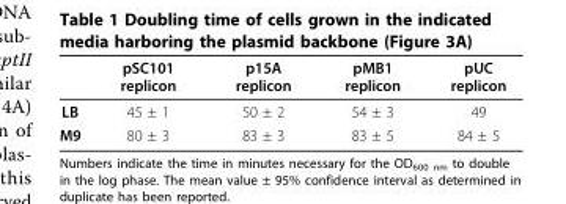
<table><thead><tr><td></td><td>pSC101 replicon</td><td>p15A replicon</td><td>pMB1 replicon</td><td>pUC replicon</td></tr></thead><tbody><tr><td>LB</td><td>45 ± 1</td><td>50 ± 2</td><td>54 ± 3</td><td>49</td></tr><tr><td>M9</td><td>80 ± 3</td><td>83 ± 3</td><td>83 ± 5</td><td>84 ± 5</td></tr></tbody></table>